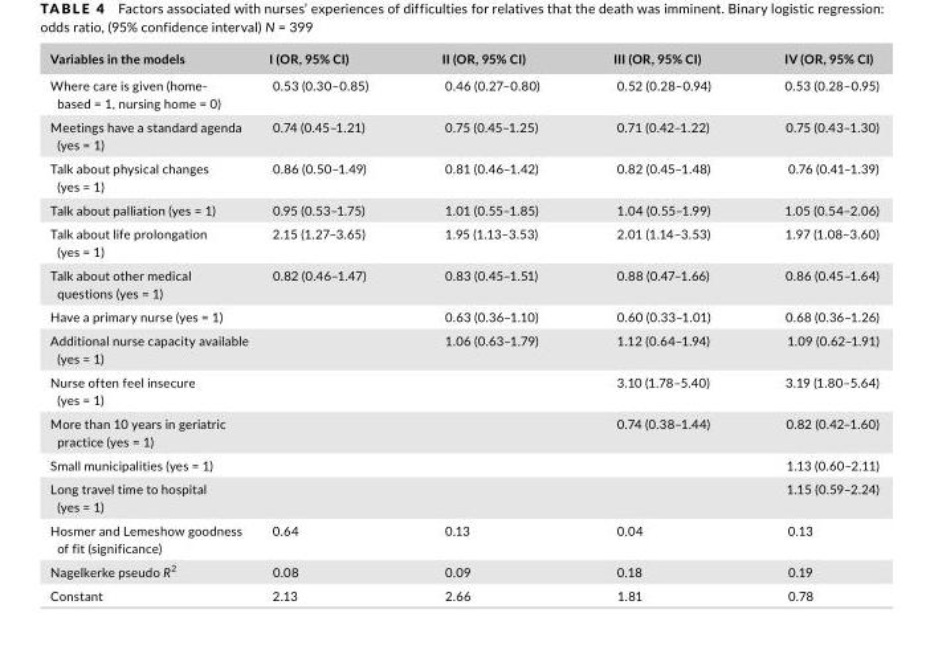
<table><thead><tr><td>Variables in the models</td><td>I (OR, 95% CI)</td><td>II (OR, 95% CI)</td><td>III (OR, 95% CI)</td><td>IV (OR, 95% CI)</td></tr></thead><tbody><tr><td>Where care is given (home- based = 1, nursing home = 0)</td><td>0.53 (0.30–0.85)</td><td>0.46 (0.27–0.80)</td><td>0.52 (0.28–0.94)</td><td>0.53 (0.28–0.95)</td></tr><tr><td>Meetings have a standard agenda (yes = 1)</td><td>0.74 (0.45–1.21)</td><td>0.75 (0.45–1.25)</td><td>0.71 (0.42–1.22)</td><td>0.75 (0.43–1.30)</td></tr><tr><td>Talk about physical changes (yes = 1)</td><td>0.86 (0.50–1.49)</td><td>0.81 (0.46–1.42)</td><td>0.82 (0.45–1.48)</td><td>0.76 (0.41–1.39)</td></tr><tr><td>Talk about palliation (yes = 1)</td><td>0.95 (0.53–1.75)</td><td>1.01 (0.55–1.85)</td><td>1.04 (0.55–1.99)</td><td>1.05 (0.54–2.06)</td></tr><tr><td>Talk about life prolongation (yes = 1)</td><td>2.15 (1.27–3.65)</td><td>1.95 (1.13–3.53)</td><td>2.01 (1.14–3.53)</td><td>1.97 (1.08–3.60)</td></tr><tr><td>Talk about other medical questions (yes = 1)</td><td>0.82 (0.46–1.47)</td><td>0.83 (0.45–1.51)</td><td>0.88 (0.47–1.66)</td><td>0.86 (0.45–1.64)</td></tr><tr><td>Have a primary nurse (yes = 1)</td><td></td><td>0.63 (0.36–1.10)</td><td>0.60 (0.33–1.01)</td><td>0.68 (0.36–1.26)</td></tr><tr><td>Additional nurse capacity available (yes = 1)</td><td></td><td>1.06 (0.63–1.79)</td><td>1.12 (0.64–1.94)</td><td>1.09 (0.62–1.91)</td></tr><tr><td>Nurse often feel insecure (yes = 1)</td><td></td><td></td><td>3.10 (1.78–5.40)</td><td>3.19 (1.80–5.64)</td></tr><tr><td>More than 10 years in geriatric practice (yes = 1)</td><td></td><td></td><td>0.74 (0.38–1.44)</td><td>0.82 (0.42–1.60)</td></tr><tr><td>Small municipalities (yes = 1)</td><td></td><td></td><td></td><td>1.13 (0.60–2.11)</td></tr><tr><td>Long travel time to hospital (yes = 1)</td><td></td><td></td><td></td><td>1.15 (0.59–2.24)</td></tr><tr><td>Hosmer and Lemeshow goodness of fit (significance)</td><td>0.64</td><td>0.13</td><td>0.04</td><td>0.13</td></tr><tr><td>Nagelkerke pseudo R<sup>2</sup></td><td>0.08</td><td>0.09</td><td>0.18</td><td>0.19</td></tr><tr><td>Constant</td><td>2.13</td><td>2.66</td><td>1.81</td><td>0.78</td></tr></tbody></table>